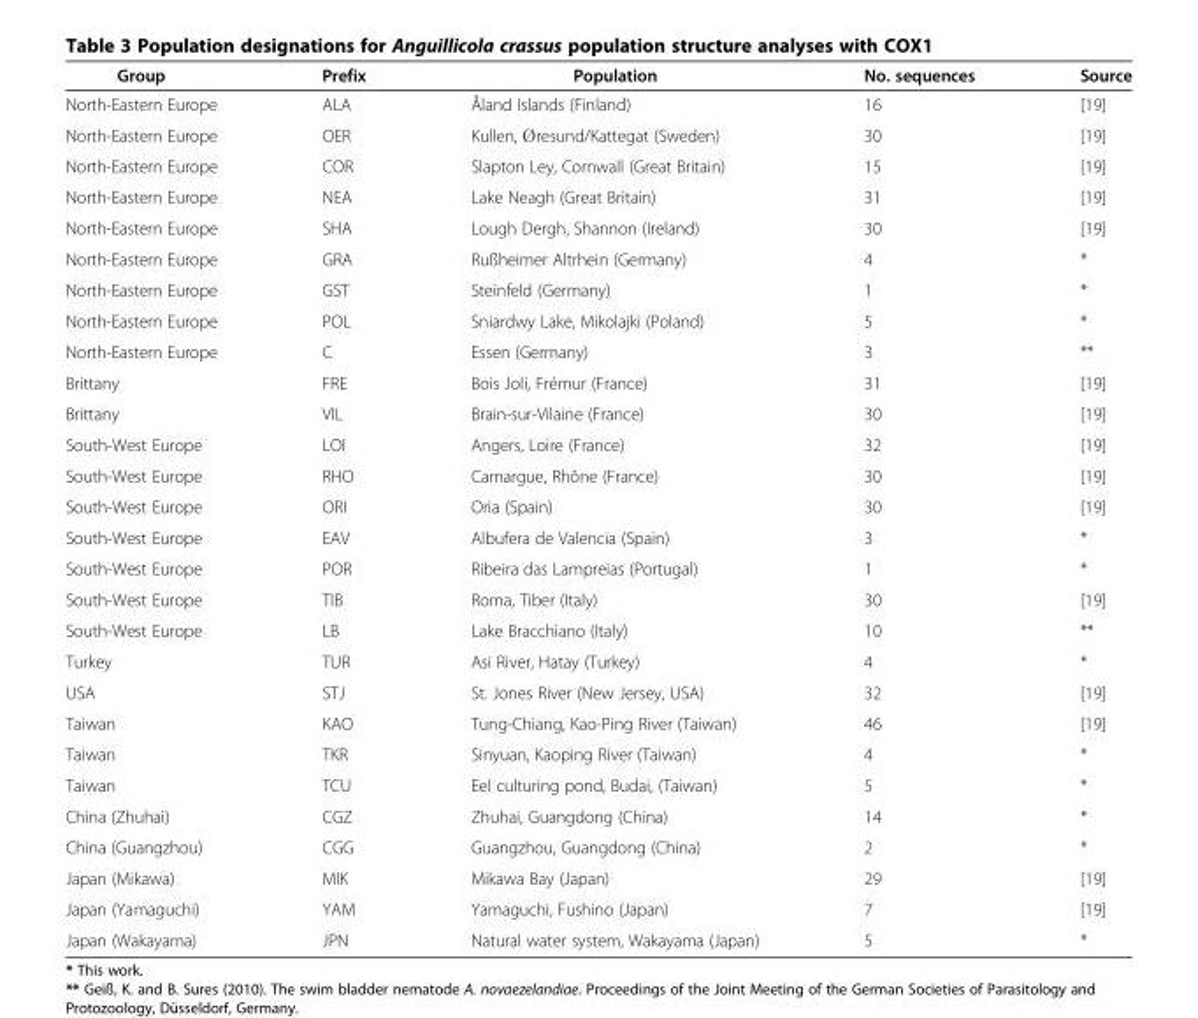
<table><thead><tr><td>Group</td><td>Prefix</td><td>Population</td><td>No. sequences</td><td>Source</td></tr></thead><tbody><tr><td>North-Eastern Europe</td><td>ALA</td><td>Åland Islands (Finland)</td><td>16</td><td>[19]</td></tr><tr><td>North-Eastern Europe</td><td>OER</td><td>Kullen, Øresund/Kattegat (Sweden)</td><td>30</td><td>[19]</td></tr><tr><td>North-Eastern Europe</td><td>COR</td><td>Slapton Ley, Cornwall (Great Britain)</td><td>15</td><td>[19]</td></tr><tr><td>North-Eastern Europe</td><td>NEA</td><td>Lake Neagh (Great Britain)</td><td>31</td><td>[19]</td></tr><tr><td>North-Eastern Europe</td><td>SHA</td><td>Lough Dergh, Shannon (Ireland)</td><td>30</td><td>[19]</td></tr><tr><td>North-Eastern Europe</td><td>GRA</td><td>Rußheimer Altrhein (Germany)</td><td>4</td><td>*</td></tr><tr><td>North-Eastern Europe</td><td>GST</td><td>Steinfeld (Germany)</td><td>1</td><td>*</td></tr><tr><td>North-Eastern Europe</td><td>POL</td><td>Sniardwy Lake, Mikolajki (Poland)</td><td>5</td><td>*</td></tr><tr><td>North-Eastern Europe</td><td>C</td><td>Essen (Germany)</td><td>3</td><td>**</td></tr><tr><td>Brittany</td><td>FRE</td><td>Bois Joli, Frémur (France)</td><td>31</td><td>[19]</td></tr><tr><td>Brittany</td><td>VIL</td><td>Brain-sur-Vilaine (France)</td><td>30</td><td>[19]</td></tr><tr><td>South-West Europe</td><td>LOI</td><td>Angers, Loire (France)</td><td>32</td><td>[19]</td></tr><tr><td>South-West Europe</td><td>RHO</td><td>Camargue, Rhône (France)</td><td>30</td><td>[19]</td></tr><tr><td>South-West Europe</td><td>ORI</td><td>Oria (Spain)</td><td>30</td><td>[19]</td></tr><tr><td>South-West Europe</td><td>EAV</td><td>Albufera de Valencia (Spain)</td><td>3</td><td>*</td></tr><tr><td>South-West Europe</td><td>POR</td><td>Ribeira das Lampreias (Portugal)</td><td>1</td><td>*</td></tr><tr><td>South-West Europe</td><td>TIB</td><td>Roma, Tiber (Italy)</td><td>30</td><td>[19]</td></tr><tr><td>South-West Europe</td><td>LB</td><td>Lake Bracchiano (Italy)</td><td>10</td><td>**</td></tr><tr><td>Turkey</td><td>TUR</td><td>Asi River, Hatay (Turkey)</td><td>4</td><td>*</td></tr><tr><td>USA</td><td>STJ</td><td>St. Jones River (New Jersey, USA)</td><td>32</td><td>[19]</td></tr><tr><td>Taiwan</td><td>KAO</td><td>Tung-Chiang, Kao-Ping River (Taiwan)</td><td>46</td><td>[19]</td></tr><tr><td>Taiwan</td><td>TKR</td><td>Sinyuan, Kaoping River (Taiwan)</td><td>4</td><td>*</td></tr><tr><td>Taiwan</td><td>TCU</td><td>Eel culturing pond, Budai, (Taiwan)</td><td>5</td><td>*</td></tr><tr><td>China (Zhuhai)</td><td>CGZ</td><td>Zhuhai, Guangdong (China)</td><td>14</td><td>*</td></tr><tr><td>China (Guangzhou)</td><td>CGG</td><td>Guangzhou, Guangdong (China)</td><td>2</td><td>*</td></tr><tr><td>Japan (Mikawa)</td><td>MIK</td><td>Mikawa Bay (Japan)</td><td>29</td><td>[19]</td></tr><tr><td>Japan (Yamaguchi)</td><td>YAM</td><td>Yamaguchi, Fushino (Japan)</td><td>7</td><td>[19]</td></tr><tr><td>Japan (Wakayama)</td><td>JPN</td><td>Natural water system, Wakayama (Japan)</td><td>5</td><td>*</td></tr></tbody></table>